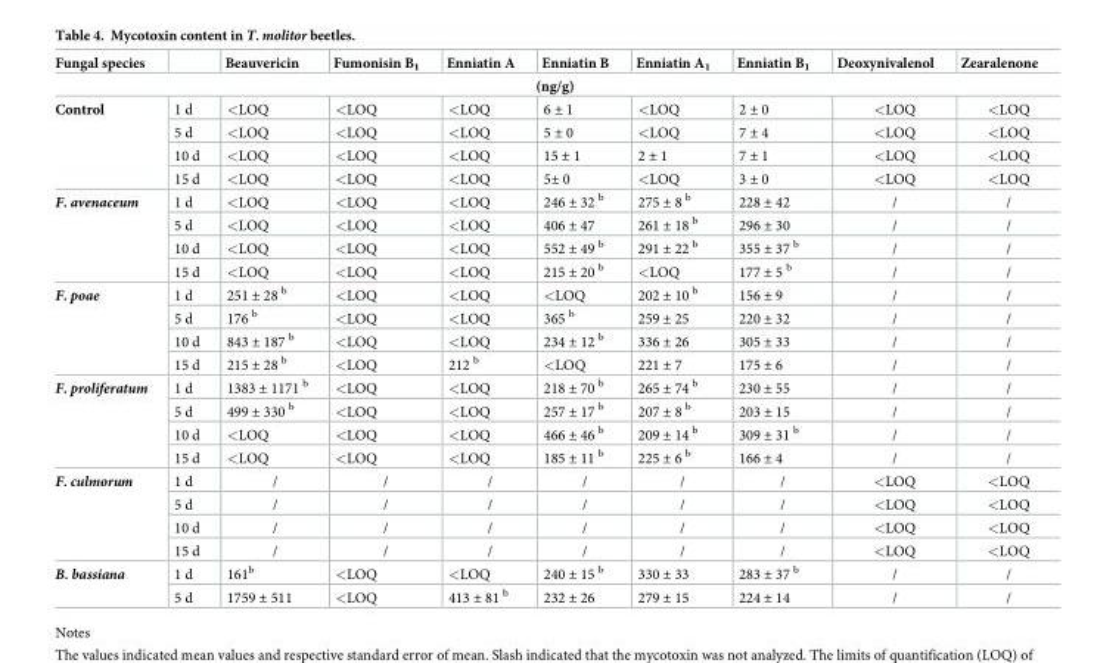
<table><thead><tr><td>Fungal species</td><td></td><td>Beauvericin</td><td>Fumonisin B<sub>1</sub></td><td>Enniatin A</td><td>Enniatin B</td><td>Enniatin A<sub>1</sub></td><td>Enniatin B<sub>1</sub></td><td>Deoxynivalenol</td><td>Zearalenone</td></tr><tr><td colspan="10">(ng/g)</td></tr></thead><tbody><tr><td rowspan="4">Control</td><td>1 d</td><td>&lt;LOQ</td><td>&lt;LOQ</td><td>&lt;LOQ</td><td>6 ± 1</td><td>&lt;LOQ</td><td>2 ± 0</td><td>&lt;LOQ</td><td>&lt;LOQ</td></tr><tr><td>5 d</td><td>&lt;LOQ</td><td>&lt;LOQ</td><td>&lt;LOQ</td><td>5 ± 0</td><td>&lt;LOQ</td><td>7 ± 4</td><td>&lt;LOQ</td><td>&lt;LOQ</td></tr><tr><td>10 d</td><td>&lt;LOQ</td><td>&lt;LOQ</td><td>&lt;LOQ</td><td>15 ± 1</td><td>2 ± 1</td><td>7 ± 1</td><td>&lt;LOQ</td><td>&lt;LOQ</td></tr><tr><td>15 d</td><td>&lt;LOQ</td><td>&lt;LOQ</td><td>&lt;LOQ</td><td>5± 0</td><td>&lt;LOQ</td><td>3 ± 0</td><td>&lt;LOQ</td><td>&lt;LOQ</td></tr><tr><td rowspan="4">F. avenaceum</td><td>1 d</td><td>&lt;LOQ</td><td>&lt;LOQ</td><td>&lt;LOQ</td><td>246 ± 32 <sup>b</sup></td><td>275 ± 8 <sup>b</sup></td><td>228 ± 42</td><td>/</td><td>/</td></tr><tr><td>5 d</td><td>&lt;LOQ</td><td>&lt;LOQ</td><td>&lt;LOQ</td><td>406 ± 47</td><td>261 ± 18 <sup>b</sup></td><td>296 ± 30</td><td>/</td><td>/</td></tr><tr><td>10 d</td><td>&lt;LOQ</td><td>&lt;LOQ</td><td>&lt;LOQ</td><td>552 ± 49 <sup>b</sup></td><td>291 ± 22 <sup>b</sup></td><td>355 ± 37 <sup>b</sup></td><td>/</td><td>/</td></tr><tr><td>15 d</td><td>&lt;LOQ</td><td>&lt;LOQ</td><td>&lt;LOQ</td><td>215 ± 20 <sup>b</sup></td><td>&lt;LOQ</td><td>177 ± 5 <sup>b</sup></td><td>/</td><td>/</td></tr><tr><td rowspan="4">F. poae</td><td>1 d</td><td>251 ± 28 <sup>b</sup></td><td>&lt;LOQ</td><td>&lt;LOQ</td><td>&lt;LOQ</td><td>202 ± 10 <sup>b</sup></td><td>156 ± 9</td><td>/</td><td>/</td></tr><tr><td>5 d</td><td>176 <sup>b</sup></td><td>&lt;LOQ</td><td>&lt;LOQ</td><td>365 <sup>b</sup></td><td>259 ± 25</td><td>220 ± 32</td><td>/</td><td>/</td></tr><tr><td>10 d</td><td>843 ± 187 <sup>b</sup></td><td>&lt;LOQ</td><td>&lt;LOQ</td><td>234 ± 12 <sup>b</sup></td><td>336 ± 26</td><td>305 ± 33</td><td>/</td><td>/</td></tr><tr><td>15 d</td><td>215 ± 28 <sup>b</sup></td><td>&lt;LOQ</td><td>212 <sup>b</sup></td><td>&lt;LOQ</td><td>221 ± 7</td><td>175 ± 6</td><td>/</td><td>/</td></tr><tr><td rowspan="4">F. proliferatum</td><td>1 d</td><td>1383 ± 1171 <sup>b</sup></td><td>&lt;LOQ</td><td>&lt;LOQ</td><td>218 ± 70 <sup>b</sup></td><td>265 ± 74 <sup>b</sup></td><td>230 ± 55</td><td>/</td><td>/</td></tr><tr><td>5 d</td><td>499 ± 330 <sup>b</sup></td><td>&lt;LOQ</td><td>&lt;LOQ</td><td>257 ± 17 <sup>b</sup></td><td>207 ± 8 <sup>b</sup></td><td>203 ± 15</td><td>/</td><td>/</td></tr><tr><td>10 d</td><td>&lt;LOQ</td><td>&lt;LOQ</td><td>&lt;LOQ</td><td>466 ± 46 <sup>b</sup></td><td>209 ± 14 <sup>b</sup></td><td>309 ± 31 <sup>b</sup></td><td>/</td><td>/</td></tr><tr><td>15 d</td><td>&lt;LOQ</td><td>&lt;LOQ</td><td>&lt;LOQ</td><td>185 ± 11 <sup>b</sup></td><td>225 ± 6 <sup>b</sup></td><td>166 ± 4</td><td>/</td><td>/</td></tr><tr><td rowspan="4">F. culmorum</td><td>1 d</td><td>/</td><td>/</td><td>/</td><td>/</td><td>/</td><td>/</td><td>&lt;LOQ</td><td>&lt;LOQ</td></tr><tr><td>5 d</td><td>/</td><td>/</td><td>/</td><td>/</td><td>/</td><td>/</td><td>&lt;LOQ</td><td>&lt;LOQ</td></tr><tr><td>10 d</td><td>/</td><td>/</td><td>/</td><td>/</td><td>/</td><td>/</td><td>&lt;LOQ</td><td>&lt;LOQ</td></tr><tr><td>15 d</td><td>/</td><td>/</td><td>/</td><td>/</td><td>/</td><td>/</td><td>&lt;LOQ</td><td>&lt;LOQ</td></tr><tr><td rowspan="2">B. bassiana</td><td>1 d</td><td>161<sup>b</sup></td><td>&lt;LOQ</td><td>&lt;LOQ</td><td>240 ± 15 <sup>b</sup></td><td>330 ± 33</td><td>283 ± 37 <sup>b</sup></td><td>/</td><td>/</td></tr><tr><td>5 d</td><td>1759 ± 511</td><td>&lt;LOQ</td><td>413 ± 81 <sup>b</sup></td><td>232 ± 26</td><td>279 ± 15</td><td>224 ± 14</td><td>/</td><td>/</td></tr></tbody></table>